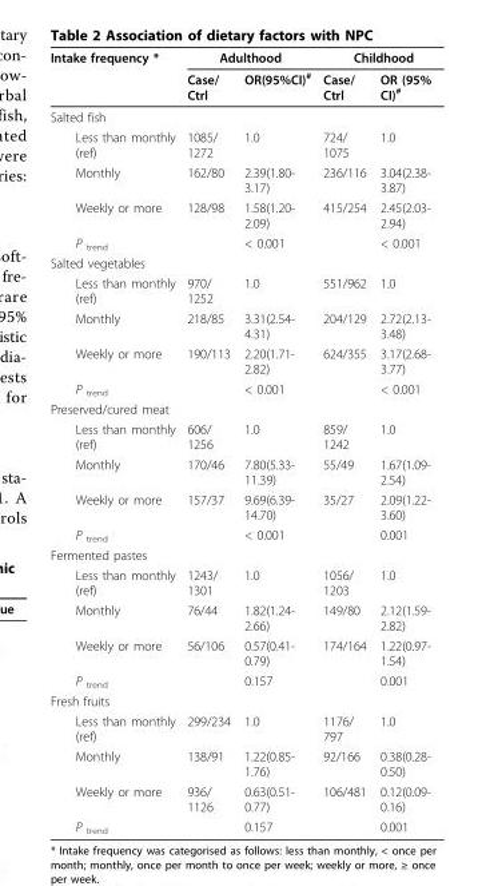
<table><thead><tr><td rowspan="2">Intake frequency *</td><td colspan="2">Adulthood</td><td colspan="2">Childhood</td></tr><tr><td>Case/ Ctrl</td><td>OR(95%CI)<sup>#</sup></td><td>Case/ Ctrl</td><td>OR (95% CI)<sup>#</sup></td></tr></thead><tbody><tr><td colspan="5">Salted fish</td></tr><tr><td>Less than monthly (ref)</td><td>1085/ 1272</td><td>1.0</td><td>724/ 1075</td><td>1.0</td></tr><tr><td>Monthly</td><td>162/80</td><td>2.39(1.80- 3.17)</td><td>236/116</td><td>3.04(2.38- 3.87)</td></tr><tr><td>Weekly or more</td><td>128/98</td><td>1.58(1.20- 2.09)</td><td>415/254</td><td>2.45(2.03- 2.94)</td></tr><tr><td>P <sub>trend</sub></td><td></td><td>&lt; 0.001</td><td></td><td>&lt; 0.001</td></tr><tr><td colspan="5">Salted vegetables</td></tr><tr><td>Less than monthly (ref)</td><td>970/ 1252</td><td>1.0</td><td>551/962</td><td>1.0</td></tr><tr><td>Monthly</td><td>218/85</td><td>3.31(2.54- 4.31)</td><td>204/129</td><td>2.72(2.13- 3.48)</td></tr><tr><td>Weekly or more</td><td>190/113</td><td>2.20(1.71- 2.82)</td><td>624/355</td><td>3.17(2.68- 3.77)</td></tr><tr><td>P <sub>trend</sub></td><td></td><td>&lt; 0.001</td><td></td><td>&lt; 0.001</td></tr><tr><td colspan="5">Preserved/cured meat</td></tr><tr><td>Less than monthly (ref)</td><td>606/ 1256</td><td>1.0</td><td>859/ 1242</td><td>1.0</td></tr><tr><td>Monthly</td><td>170/46</td><td>7.80(5.33- 11.39)</td><td>55/49</td><td>1.67(1.09- 2.54)</td></tr><tr><td>Weekly or more</td><td>157/37</td><td>9.69(6.39- 14.70)</td><td>35/27</td><td>2.09(1.22- 3.60)</td></tr><tr><td>P <sub>trend</sub></td><td></td><td>&lt; 0.001</td><td></td><td>0.001</td></tr><tr><td colspan="5">Fermented pastes</td></tr><tr><td>Less than monthly (ref)</td><td>1243/ 1301</td><td>1.0</td><td>1056/ 1203</td><td>1.0</td></tr><tr><td>Monthly</td><td>76/44</td><td>1.82(1.24- 2.66)</td><td>149/80</td><td>2.12(1.59- 2.82)</td></tr><tr><td>Weekly or more</td><td>56/106</td><td>0.57(0.41- 0.79)</td><td>174/164</td><td>1.22(0.97- 1.54)</td></tr><tr><td>P <sub>trend</sub></td><td></td><td>0.157</td><td></td><td>0.001</td></tr><tr><td colspan="5">Fresh fruits</td></tr><tr><td>Less than monthly (ref)</td><td>299/234</td><td>1.0</td><td>1176/ 797</td><td>1.0</td></tr><tr><td>Monthly</td><td>138/91</td><td>1.22(0.85- 1.76)</td><td>92/166</td><td>0.38(0.28- 0.50)</td></tr><tr><td>Weekly or more</td><td>936/ 1126</td><td>0.63(0.51- 0.77)</td><td>106/481</td><td>0.12(0.09- 0.16)</td></tr><tr><td>P <sub>trend</sub></td><td></td><td>0.157</td><td></td><td>0.001</td></tr></tbody></table>